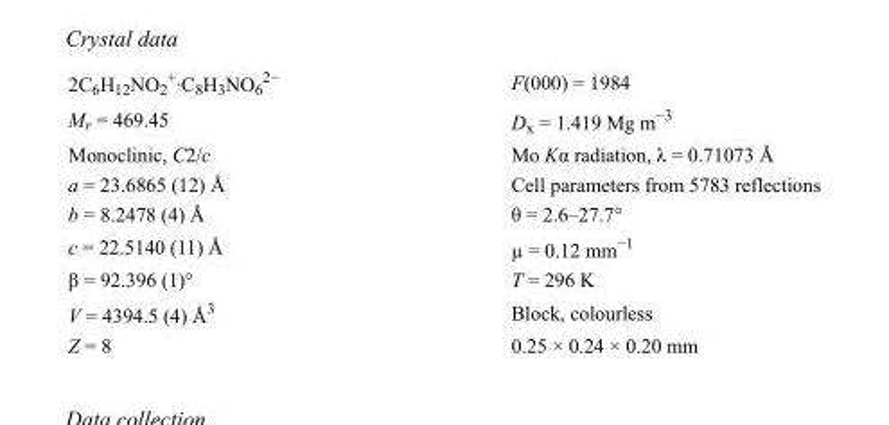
<table><tbody><tr><td>2C<sub>6</sub>H<sub>12</sub>NO<sub>2</sub> <sup>+</sup>·C<sub>8</sub>H<sub>3</sub>NO<sub>6</sub> <sup>2−</sup></td><td>F(000) = 1984</td></tr><tr><td>M<sub>r</sub> = 469.45</td><td>D<sub>x</sub> = 1.419 Mg m<sup>−3</sup></td></tr><tr><td>Monoclinic, C2/c</td><td>Mo Kα radiation, λ = 0.71073 Å</td></tr><tr><td>a = 23.6865 (12) Å</td><td>Cell parameters from 5783 reflections</td></tr><tr><td>b = 8.2478 (4) Å</td><td>θ = 2.6–27.7°</td></tr><tr><td>c = 22.5140 (11) Å</td><td>µ = 0.12 mm<sup>−1</sup></td></tr><tr><td>β = 92.396 (1)°</td><td>T = 296 K</td></tr><tr><td>V = 4394.5 (4) Å<sup>3</sup></td><td>Block, colourless</td></tr><tr><td>Z = 8</td><td>0.25 × 0.24 × 0.20 mm</td></tr></tbody></table>